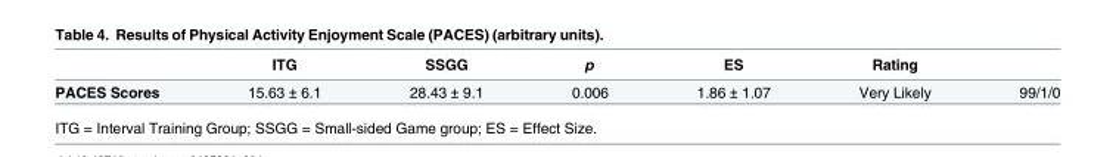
<table><thead><tr><td></td><td>ITG</td><td>SSGG</td><td>p</td><td>ES</td><td>Rating</td><td></td></tr></thead><tbody><tr><td>PACES Scores</td><td>15.63 ± 6.1</td><td>28.43 ± 9.1</td><td>0.006</td><td>1.86 ± 1.07</td><td>Very Likely</td><td>99/1/0</td></tr></tbody></table>